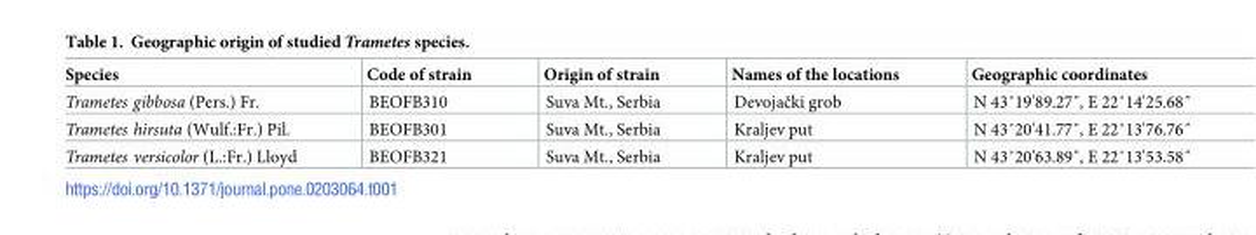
<table><thead><tr><td>Species</td><td>Code of strain</td><td>Origin of strain</td><td>Names of the locations</td><td>Geographic coordinates</td></tr></thead><tbody><tr><td>Trametes gibbosa (Pers.) Fr.</td><td>BEOFB310</td><td>Suva Mt., Serbia</td><td>Devojački grob</td><td>N 43˚19ˈ89.27˝, E 22˚14ˈ25.68˝</td></tr><tr><td>Trametes hirsuta (Wulf.:Fr.) Pil.</td><td>BEOFB301</td><td>Suva Mt., Serbia</td><td>Kraljev put</td><td>N 43˚20ˈ41.77˝, E 22˚13ˈ76.76˝</td></tr><tr><td>Trametes versicolor (L.:Fr.) Lloyd</td><td>BEOFB321</td><td>Suva Mt., Serbia</td><td>Kraljev put</td><td>N 43˚20ˈ63.89˝, E 22˚13ˈ53.58˝</td></tr></tbody></table>